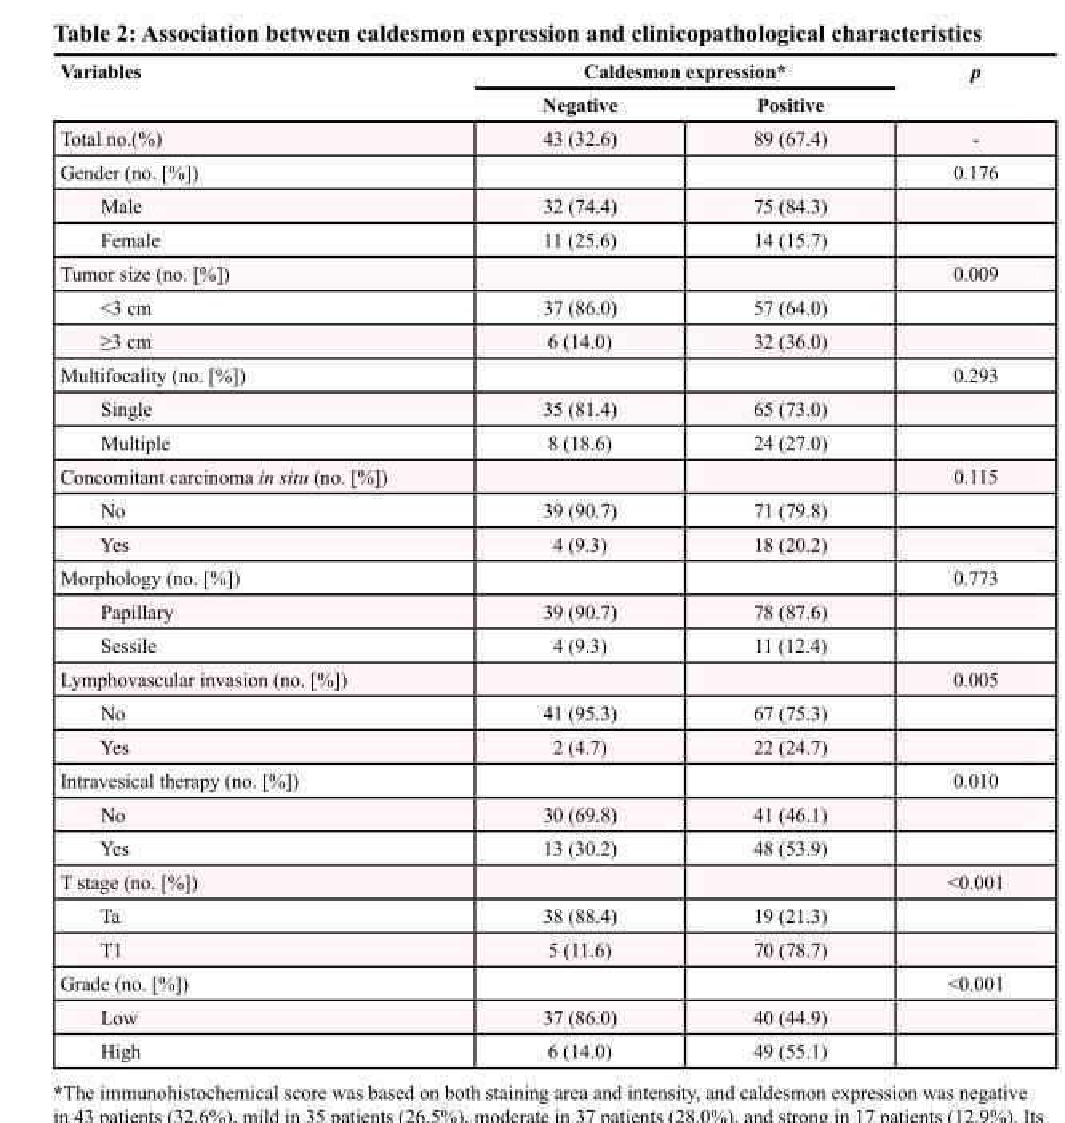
<table><thead><tr><td rowspan="2">Variables</td><td colspan="2">Caldesmon expression*</td><td rowspan="2">p</td></tr><tr><td>Negative</td><td>Positive</td></tr></thead><tbody><tr><td>Total no.(%)</td><td>43 (32.6)</td><td>89 (67.4)</td><td>-</td></tr><tr><td>Gender (no. [%])</td><td></td><td></td><td>0.176</td></tr><tr><td>Male</td><td>32 (74.4)</td><td>75 (84.3)</td><td></td></tr><tr><td>Female</td><td>11 (25.6)</td><td>14 (15.7)</td><td></td></tr><tr><td>Tumor size (no. [%])</td><td></td><td></td><td>0.009</td></tr><tr><td>&lt;3 cm</td><td>37 (86.0)</td><td>57 (64.0)</td><td></td></tr><tr><td>≥3 cm</td><td>6 (14.0)</td><td>32 (36.0)</td><td></td></tr><tr><td>Multifocality (no. [%])</td><td></td><td></td><td>0.293</td></tr><tr><td>Single</td><td>35 (81.4)</td><td>65 (73.0)</td><td></td></tr><tr><td>Multiple</td><td>8 (18.6)</td><td>24 (27.0)</td><td></td></tr><tr><td>Concomitant carcinoma in situ (no. [%])</td><td></td><td></td><td>0.115</td></tr><tr><td>No</td><td>39 (90.7)</td><td>71 (79.8)</td><td></td></tr><tr><td>Yes</td><td>4 (9.3)</td><td>18 (20.2)</td><td></td></tr><tr><td>Morphology (no. [%])</td><td></td><td></td><td>0.773</td></tr><tr><td>Papillary</td><td>39 (90.7)</td><td>78 (87.6)</td><td></td></tr><tr><td>Sessile</td><td>4 (9.3)</td><td>11 (12.4)</td><td></td></tr><tr><td>Lymphovascular invasion (no. [%])</td><td></td><td></td><td>0.005</td></tr><tr><td>No</td><td>41 (95.3)</td><td>67 (75.3)</td><td></td></tr><tr><td>Yes</td><td>2 (4.7)</td><td>22 (24.7)</td><td></td></tr><tr><td>Intravesical therapy (no. [%])</td><td></td><td></td><td>0.010</td></tr><tr><td>No</td><td>30 (69.8)</td><td>41 (46.1)</td><td></td></tr><tr><td>Yes</td><td>13 (30.2)</td><td>48 (53.9)</td><td></td></tr><tr><td>T stage (no. [%])</td><td></td><td></td><td>&lt;0.001</td></tr><tr><td>Ta</td><td>38 (88.4)</td><td>19 (21.3)</td><td></td></tr><tr><td>T1</td><td>5 (11.6)</td><td>70 (78.7)</td><td></td></tr><tr><td>Grade (no. [%])</td><td></td><td></td><td>&lt;0.001</td></tr><tr><td>Low</td><td>37 (86.0)</td><td>40 (44.9)</td><td></td></tr><tr><td>High</td><td>6 (14.0)</td><td>49 (55.1)</td><td></td></tr></tbody></table>